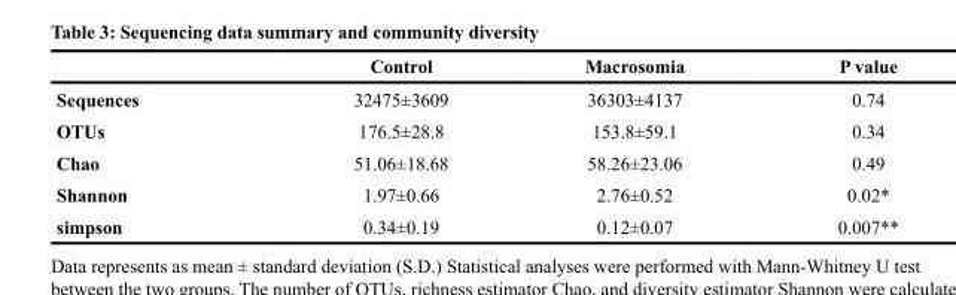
<table><thead><tr><td></td><td>Control</td><td>Macrosomia</td><td>P value</td></tr></thead><tbody><tr><td>Sequences</td><td>32475±3609</td><td>36303±4137</td><td>0.74</td></tr><tr><td>OTUs</td><td>176.5±28.8</td><td>153.8±59.1</td><td>0.34</td></tr><tr><td>Chao</td><td>51.06±18.68</td><td>58.26±23.06</td><td>0.49</td></tr><tr><td>Shannon</td><td>1.97±0.66</td><td>2.76±0.52</td><td>0.02*</td></tr><tr><td>simpson</td><td>0.34±0.19</td><td>0.12±0.07</td><td>0.007**</td></tr></tbody></table>